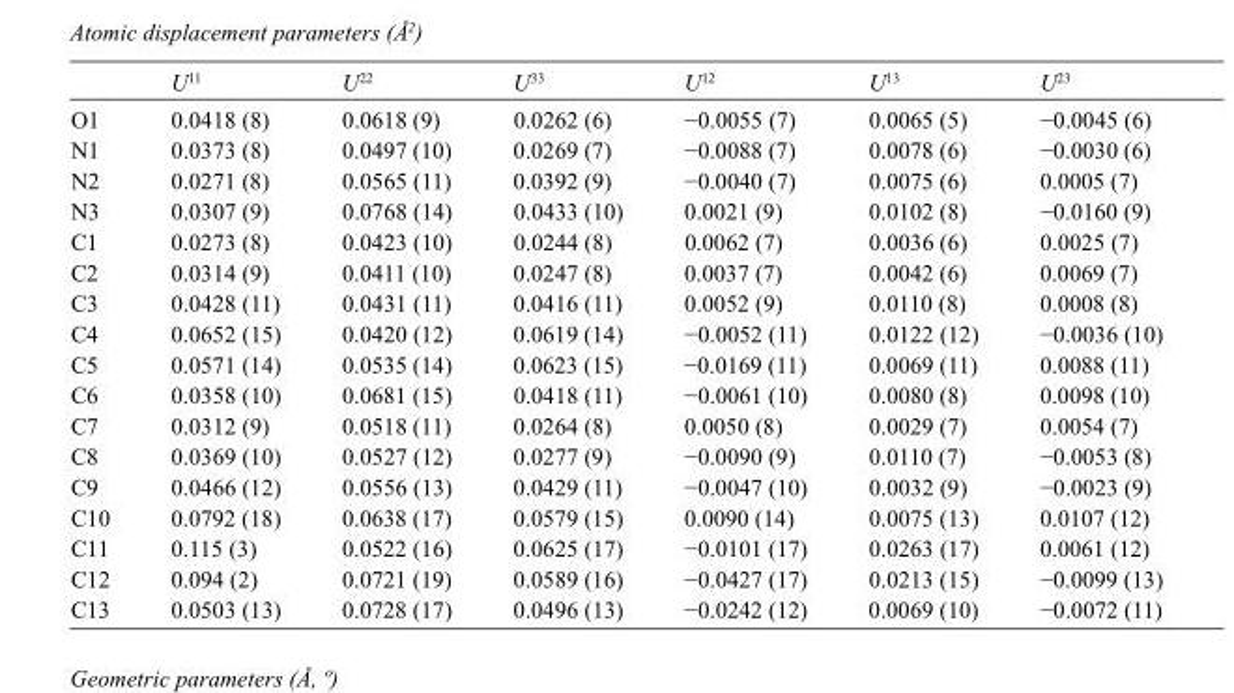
<table><thead><tr><td></td><td>U<sup>11</sup></td><td>U<sup>22</sup></td><td>U<sup>33</sup></td><td>U<sup>12</sup></td><td>U<sup>13</sup></td><td>U<sup>23</sup></td></tr></thead><tbody><tr><td>O1</td><td>0.0418 (8)</td><td>0.0618 (9)</td><td>0.0262 (6)</td><td>−0.0055 (7)</td><td>0.0065 (5)</td><td>−0.0045 (6)</td></tr><tr><td>N1</td><td>0.0373 (8)</td><td>0.0497 (10)</td><td>0.0269 (7)</td><td>−0.0088 (7)</td><td>0.0078 (6)</td><td>−0.0030 (6)</td></tr><tr><td>N2</td><td>0.0271 (8)</td><td>0.0565 (11)</td><td>0.0392 (9)</td><td>−0.0040 (7)</td><td>0.0075 (6)</td><td>0.0005 (7)</td></tr><tr><td>N3</td><td>0.0307 (9)</td><td>0.0768 (14)</td><td>0.0433 (10)</td><td>0.0021 (9)</td><td>0.0102 (8)</td><td>−0.0160 (9)</td></tr><tr><td>C1</td><td>0.0273 (8)</td><td>0.0423 (10)</td><td>0.0244 (8)</td><td>0.0062 (7)</td><td>0.0036 (6)</td><td>0.0025 (7)</td></tr><tr><td>C2</td><td>0.0314 (9)</td><td>0.0411 (10)</td><td>0.0247 (8)</td><td>0.0037 (7)</td><td>0.0042 (6)</td><td>0.0069 (7)</td></tr><tr><td>C3</td><td>0.0428 (11)</td><td>0.0431 (11)</td><td>0.0416 (11)</td><td>0.0052 (9)</td><td>0.0110 (8)</td><td>0.0008 (8)</td></tr><tr><td>C4</td><td>0.0652 (15)</td><td>0.0420 (12)</td><td>0.0619 (14)</td><td>−0.0052 (11)</td><td>0.0122 (12)</td><td>−0.0036 (10)</td></tr><tr><td>C5</td><td>0.0571 (14)</td><td>0.0535 (14)</td><td>0.0623 (15)</td><td>−0.0169 (11)</td><td>0.0069 (11)</td><td>0.0088 (11)</td></tr><tr><td>C6</td><td>0.0358 (10)</td><td>0.0681 (15)</td><td>0.0418 (11)</td><td>−0.0061 (10)</td><td>0.0080 (8)</td><td>0.0098 (10)</td></tr><tr><td>C7</td><td>0.0312 (9)</td><td>0.0518 (11)</td><td>0.0264 (8)</td><td>0.0050 (8)</td><td>0.0029 (7)</td><td>0.0054 (7)</td></tr><tr><td>C8</td><td>0.0369 (10)</td><td>0.0527 (12)</td><td>0.0277 (9)</td><td>−0.0090 (9)</td><td>0.0110 (7)</td><td>−0.0053 (8)</td></tr><tr><td>C9</td><td>0.0466 (12)</td><td>0.0556 (13)</td><td>0.0429 (11)</td><td>−0.0047 (10)</td><td>0.0032 (9)</td><td>−0.0023 (9)</td></tr><tr><td>C10</td><td>0.0792 (18)</td><td>0.0638 (17)</td><td>0.0579 (15)</td><td>0.0090 (14)</td><td>0.0075 (13)</td><td>0.0107 (12)</td></tr><tr><td>C11</td><td>0.115 (3)</td><td>0.0522 (16)</td><td>0.0625 (17)</td><td>−0.0101 (17)</td><td>0.0263 (17)</td><td>0.0061 (12)</td></tr><tr><td>C12</td><td>0.094 (2)</td><td>0.0721 (19)</td><td>0.0589 (16)</td><td>−0.0427 (17)</td><td>0.0213 (15)</td><td>−0.0099 (13)</td></tr><tr><td>C13</td><td>0.0503 (13)</td><td>0.0728 (17)</td><td>0.0496 (13)</td><td>−0.0242 (12)</td><td>0.0069 (10)</td><td>−0.0072 (11)</td></tr></tbody></table>